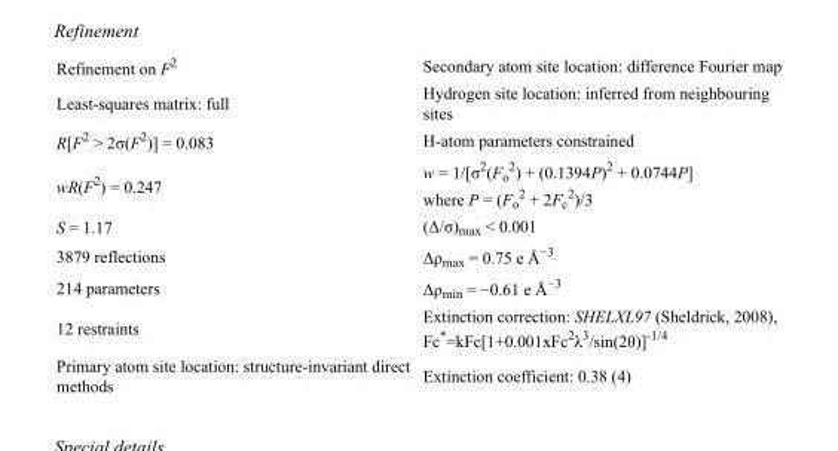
<table><tbody><tr><td>Refinement on F<sup>2</sup></td><td>Secondary atom site location: difference Fourier map</td></tr><tr><td>Least-squares matrix: full</td><td>Hydrogen site location: inferred from neighbouring sites</td></tr><tr><td>R[F<sup>2</sup> &gt; 2σ(F<sup>2</sup>)] = 0.083</td><td>H-atom parameters constrained</td></tr><tr><td>wR(F<sup>2</sup>) = 0.247</td><td>w = 1/[σ<sup>2</sup>(F<sub>o</sub> <sup>2</sup>) + (0.1394P)<sup>2</sup> + 0.0744P] where P = (F<sub>o</sub> <sup>2</sup> + 2F<sub>c</sub> <sup>2</sup>)/3</td></tr><tr><td>S = 1.17</td><td>(Δ/σ)<sub>max</sub> &lt; 0.001</td></tr><tr><td>3879 reflections</td><td>Δρ<sub>max</sub> = 0.75 e Å<sup>−3</sup></td></tr><tr><td>214 parameters</td><td>Δρ<sub>min</sub> = −0.61 e Å<sup>−3</sup></td></tr><tr><td>12 restraints</td><td>Extinction correction: SHELXL97 (Sheldrick, 2008), Fc*=kFc[1+0.001xFc<sup>2</sup>λ<sup>3</sup>/sin(2θ)]<sup>-1/4</sup></td></tr><tr><td>Primary atom site location: structure-invariant direct methods</td><td>Extinction coefficient: 0.38 (4)</td></tr></tbody></table>